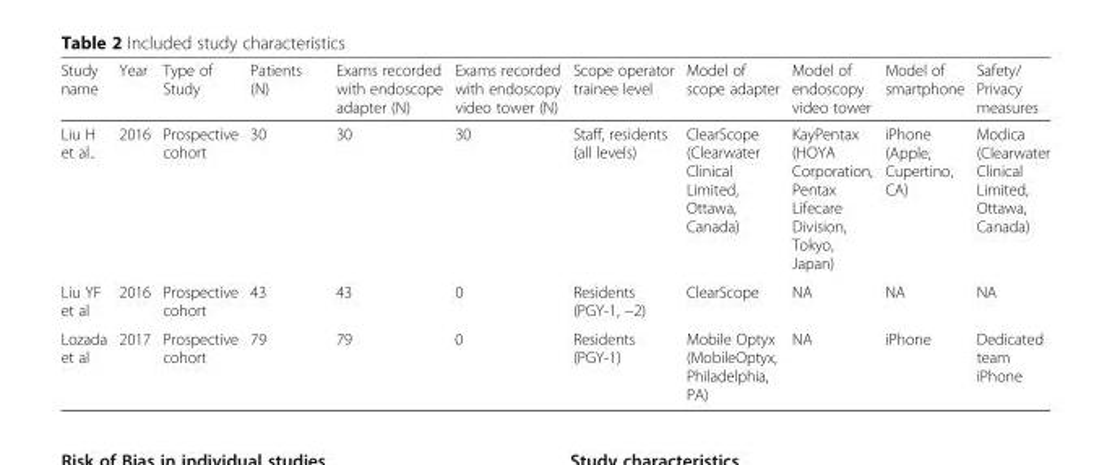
<table><thead><tr><td>Study name</td><td>Year</td><td>Type of Study</td><td>Patients (N)</td><td>Exams recorded with endoscope adapter (N)</td><td>Exams recorded with endoscopy video tower (N)</td><td>Scope operator trainee level</td><td>Model of scope adapter</td><td>Model of endoscopy video tower</td><td>Model of smartphone</td><td>Safety/ Privacy measures</td></tr></thead><tbody><tr><td>Liu H et al..</td><td>2016</td><td>Prospective cohort</td><td>30</td><td>30</td><td>30</td><td>Staff, residents (all levels)</td><td>ClearScope (Clearwater Clinical Limited, Ottawa, Canada)</td><td>KayPentax (HOYA Corporation, Pentax Lifecare Division, Tokyo, Japan)</td><td>iPhone (Apple, Cupertino, CA)</td><td>Modica (Clearwater Clinical Limited, Ottawa, Canada)</td></tr><tr><td>Liu YF et al</td><td>2016</td><td>Prospective cohort</td><td>43</td><td>43</td><td>0</td><td>Residents (PGY-1, −2)</td><td>ClearScope</td><td>NA</td><td>NA</td><td>NA</td></tr><tr><td>Lozada et al</td><td>2017</td><td>Prospective cohort</td><td>79</td><td>79</td><td>0</td><td>Residents (PGY-1)</td><td>Mobile Optyx (MobileOptyx, Philadelphia, PA)</td><td>NA</td><td>iPhone</td><td>Dedicated team iPhone</td></tr></tbody></table>